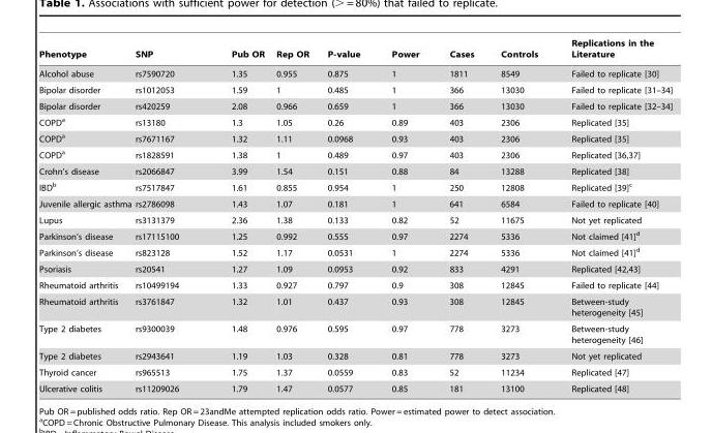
<table><thead><tr><td>Phenotype</td><td>SNP</td><td>Pub OR</td><td>Rep OR</td><td>P-value</td><td>Power</td><td>Cases</td><td>Controls</td><td>Replications in the Literature</td></tr></thead><tbody><tr><td>Alcohol abuse</td><td>rs7590720</td><td>1.35</td><td>0.955</td><td>0.875</td><td>1</td><td>1811</td><td>8549</td><td>Failed to replicate [30]</td></tr><tr><td>Bipolar disorder</td><td>rs1012053</td><td>1.59</td><td>1</td><td>0.485</td><td>1</td><td>366</td><td>13030</td><td>Failed to replicate [31–34]</td></tr><tr><td>Bipolar disorder</td><td>rs420259</td><td>2.08</td><td>0.966</td><td>0.659</td><td>1</td><td>366</td><td>13030</td><td>Failed to replicate [32–34]</td></tr><tr><td>COPD<sup>a</sup></td><td>rs13180</td><td>1.3</td><td>1.05</td><td>0.26</td><td>0.89</td><td>403</td><td>2306</td><td>Replicated [35]</td></tr><tr><td>COPD<sup>a</sup></td><td>rs7671167</td><td>1.32</td><td>1.11</td><td>0.0968</td><td>0.93</td><td>403</td><td>2306</td><td>Replicated [35]</td></tr><tr><td>COPD<sup>a</sup></td><td>rs1828591</td><td>1.38</td><td>1</td><td>0.489</td><td>0.97</td><td>403</td><td>2306</td><td>Replicated [36,37]</td></tr><tr><td>Crohn’s disease</td><td>rs2066847</td><td>3.99</td><td>1.54</td><td>0.151</td><td>0.88</td><td>84</td><td>13288</td><td>Replicated [38]</td></tr><tr><td>IBD<sup>b</sup></td><td>rs7517847</td><td>1.61</td><td>0.855</td><td>0.954</td><td>1</td><td>250</td><td>12808</td><td>Replicated [39]c</td></tr><tr><td>Juvenile allergic asthma</td><td>rs2786098</td><td>1.43</td><td>1.07</td><td>0.181</td><td>1</td><td>641</td><td>6584</td><td>Failed to replicate [40]</td></tr><tr><td>Lupus</td><td>rs3131379</td><td>2.36</td><td>1.38</td><td>0.133</td><td>0.82</td><td>52</td><td>11675</td><td>Not yet replicated</td></tr><tr><td>Parkinson’s disease</td><td>rs17115100</td><td>1.25</td><td>0.992</td><td>0.555</td><td>0.97</td><td>2274</td><td>5336</td><td>Not claimed [41]d</td></tr><tr><td>Parkinson’s disease</td><td>rs823128</td><td>1.52</td><td>1.17</td><td>0.0531</td><td>1</td><td>2274</td><td>5336</td><td>Not claimed [41]d</td></tr><tr><td>Psoriasis</td><td>rs20541</td><td>1.27</td><td>1.09</td><td>0.0953</td><td>0.92</td><td>833</td><td>4291</td><td>Replicated [42,43]</td></tr><tr><td>Rheumatoid arthritis</td><td>rs10499194</td><td>1.33</td><td>0.927</td><td>0.797</td><td>0.9</td><td>308</td><td>12845</td><td>Failed to replicate [44]</td></tr><tr><td>Rheumatoid arthritis</td><td>rs3761847</td><td>1.32</td><td>1.01</td><td>0.437</td><td>0.93</td><td>308</td><td>12845</td><td>Between-study heterogeneity [45]</td></tr><tr><td>Type 2 diabetes</td><td>rs9300039</td><td>1.48</td><td>0.976</td><td>0.595</td><td>0.97</td><td>778</td><td>3273</td><td>Between-study heterogeneity [46]</td></tr><tr><td>Type 2 diabetes</td><td>rs2943641</td><td>1.19</td><td>1.03</td><td>0.328</td><td>0.81</td><td>778</td><td>3273</td><td>Not yet replicated</td></tr><tr><td>Thyroid cancer</td><td>rs965513</td><td>1.75</td><td>1.37</td><td>0.0559</td><td>0.83</td><td>52</td><td>11234</td><td>Replicated [47]</td></tr><tr><td>Ulcerative colitis</td><td>rs11209026</td><td>1.79</td><td>1.47</td><td>0.0577</td><td>0.85</td><td>181</td><td>13100</td><td>Replicated [48]</td></tr></tbody></table>